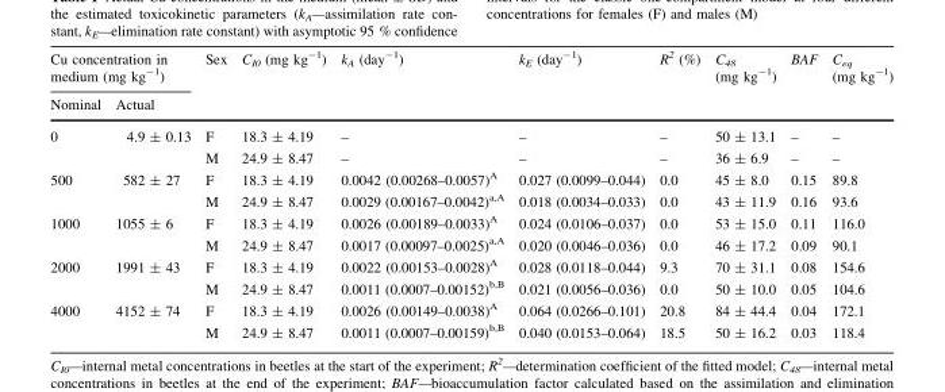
<table><thead><tr><td colspan="2">Cu concentration in medium (mg kg<sup>-1</sup>)</td><td rowspan="2">Sex</td><td rowspan="2">C<sub>I0</sub> (mg kg<sup>-1</sup>)</td><td rowspan="2">k<sub>A</sub> (day<sup>-1</sup>)</td><td rowspan="2">k<sub>E</sub> (day<sup>-1</sup>)</td><td rowspan="2">R<sup>2</sup> (%)</td><td rowspan="2">C<sub>48</sub> (mg kg<sup>-1</sup>)</td><td rowspan="2">BAF</td><td rowspan="2">C<sub>eq</sub> (mg kg<sup>-1</sup>)</td></tr><tr><td>Nominal</td><td>Actual</td></tr></thead><tbody><tr><td rowspan="2">0</td><td rowspan="2">4.9 ± 0.13</td><td>F</td><td>18.3 ± 4.19</td><td>–</td><td>–</td><td>–</td><td>50 ± 13.1</td><td>–</td><td>–</td></tr><tr><td>M</td><td>24.9 ± 8.47</td><td>–</td><td>–</td><td>–</td><td>36 ± 6.9</td><td>–</td><td>–</td></tr><tr><td rowspan="2">500</td><td rowspan="2">582 ± 27</td><td>F</td><td>18.3 ± 4.19</td><td>0.0042 (0.00268–0.0057)<sup>A</sup></td><td>0.027 (0.0099–0.044)</td><td>0.0</td><td>45 ± 8.0</td><td>0.15</td><td>89.8</td></tr><tr><td>M</td><td>24.9 ± 8.47</td><td>0.0029 (0.00167–0.0042)<sup>a,A</sup></td><td>0.018 (0.0034–0.033)</td><td>0.0</td><td>43 ± 11.9</td><td>0.16</td><td>93.6</td></tr><tr><td rowspan="2">1000</td><td rowspan="2">1055 ± 6</td><td>F</td><td>18.3 ± 4.19</td><td>0.0026 (0.00189–0.0033)<sup>A</sup></td><td>0.024 (0.0106–0.037)</td><td>0.0</td><td>53 ± 15.0</td><td>0.11</td><td>116.0</td></tr><tr><td>M</td><td>24.9 ± 8.47</td><td>0.0017 (0.00097–0.0025)<sup>a,A</sup></td><td>0.020 (0.0046–0.036)</td><td>0.0</td><td>46 ± 17.2</td><td>0.09</td><td>90.1</td></tr><tr><td rowspan="2">2000</td><td rowspan="2">1991 ± 43</td><td>F</td><td>18.3 ± 4.19</td><td>0.0022 (0.00153–0.0028)<sup>A</sup></td><td>0.028 (0.0118–0.044)</td><td>9.3</td><td>70 ± 31.1</td><td>0.08</td><td>154.6</td></tr><tr><td>M</td><td>24.9 ± 8.47</td><td>0.0011 (0.0007–0.00152)<sup>b,B</sup></td><td>0.021 (0.0056–0.036)</td><td>0.0</td><td>50 ± 10.0</td><td>0.05</td><td>104.6</td></tr><tr><td rowspan="2">4000</td><td rowspan="2">4152 ± 74</td><td>F</td><td>18.3 ± 4.19</td><td>0.0026 (0.00149–0.0038)<sup>A</sup></td><td>0.064 (0.0266–0.101)</td><td>20.8</td><td>84 ± 44.4</td><td>0.04</td><td>172.1</td></tr><tr><td>M</td><td>24.9 ± 8.47</td><td>0.0011 (0.0007–0.00159)<sup>b,B</sup></td><td>0.040 (0.0153–0.064)</td><td>18.5</td><td>50 ± 16.2</td><td>0.03</td><td>118.4</td></tr></tbody></table>